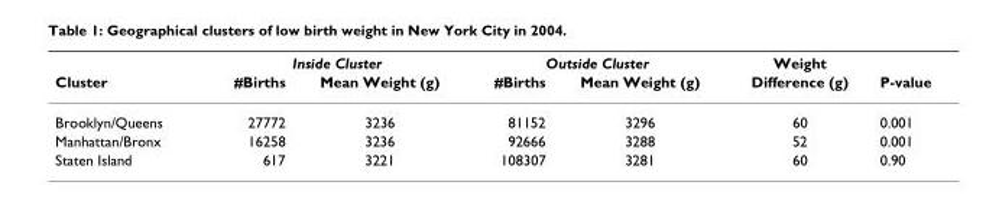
<table><thead><tr><td rowspan="2">Cluster</td><td colspan="2">Inside Cluster</td><td colspan="2">Outside Cluster</td><td rowspan="2">Weight Difference (g)</td><td rowspan="2">P-value</td></tr><tr><td>#Births</td><td>Mean Weight (g)</td><td>#Births</td><td>Mean Weight (g)</td></tr></thead><tbody><tr><td>Brooklyn/Queens</td><td>27772</td><td>3236</td><td>81152</td><td>3296</td><td>60</td><td>0.001</td></tr><tr><td>Manhattan/Bronx</td><td>16258</td><td>3236</td><td>92666</td><td>3288</td><td>52</td><td>0.001</td></tr><tr><td>Staten Island</td><td>617</td><td>3221</td><td>108307</td><td>3281</td><td>60</td><td>0.90</td></tr></tbody></table>